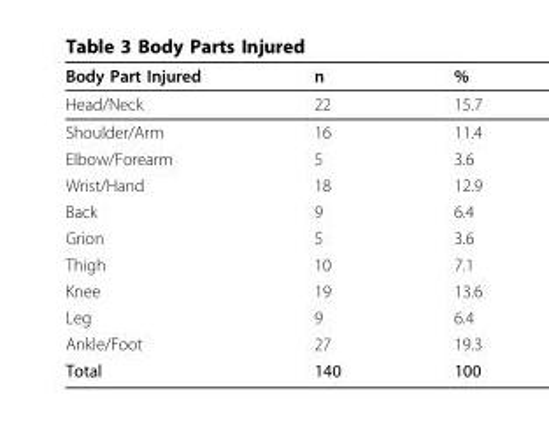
<table><thead><tr><td>Body Part Injured</td><td>n</td><td>%</td></tr></thead><tbody><tr><td>Head/Neck</td><td>22</td><td>15.7</td></tr><tr><td>Shoulder/Arm</td><td>16</td><td>11.4</td></tr><tr><td>Elbow/Forearm</td><td>5</td><td>3.6</td></tr><tr><td>Wrist/Hand</td><td>18</td><td>12.9</td></tr><tr><td>Back</td><td>9</td><td>6.4</td></tr><tr><td>Grion</td><td>5</td><td>3.6</td></tr><tr><td>Thigh</td><td>10</td><td>7.1</td></tr><tr><td>Knee</td><td>19</td><td>13.6</td></tr><tr><td>Leg</td><td>9</td><td>6.4</td></tr><tr><td>Ankle/Foot</td><td>27</td><td>19.3</td></tr><tr><td>Total</td><td>140</td><td>100</td></tr></tbody></table>